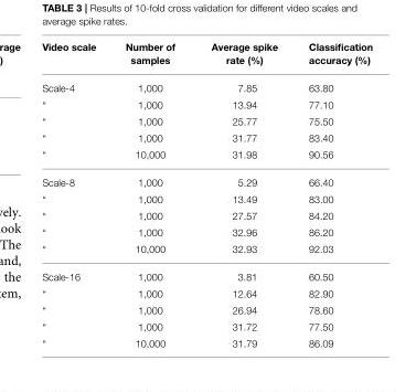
<table><thead><tr><td>Video scale</td><td>Number of samples</td><td>Average spike rate (%)</td><td>Classification accuracy (%)</td></tr></thead><tbody><tr><td>Scale-4</td><td>1,000</td><td>7.85</td><td>63.80</td></tr><tr><td>“</td><td>1,000</td><td>13.94</td><td>77.10</td></tr><tr><td>“</td><td>1,000</td><td>25.77</td><td>75.50</td></tr><tr><td>“</td><td>1,000</td><td>31.77</td><td>83.40</td></tr><tr><td>“</td><td>10,000</td><td>31.98</td><td>90.56</td></tr><tr><td>Scale-8</td><td>1,000</td><td>5.29</td><td>66.40</td></tr><tr><td>“</td><td>1,000</td><td>13.49</td><td>83.00</td></tr><tr><td>“</td><td>1,000</td><td>27.57</td><td>84.20</td></tr><tr><td>“</td><td>1,000</td><td>32.96</td><td>86.20</td></tr><tr><td>“</td><td>10,000</td><td>32.93</td><td>92.03</td></tr><tr><td>Scale-16</td><td>1,000</td><td>3.81</td><td>60.50</td></tr><tr><td>“</td><td>1,000</td><td>12.64</td><td>82.90</td></tr><tr><td>“</td><td>1,000</td><td>26.94</td><td>78.60</td></tr><tr><td>“</td><td>1,000</td><td>31.72</td><td>77.50</td></tr><tr><td>“</td><td>10,000</td><td>31.79</td><td>86.09</td></tr></tbody></table>